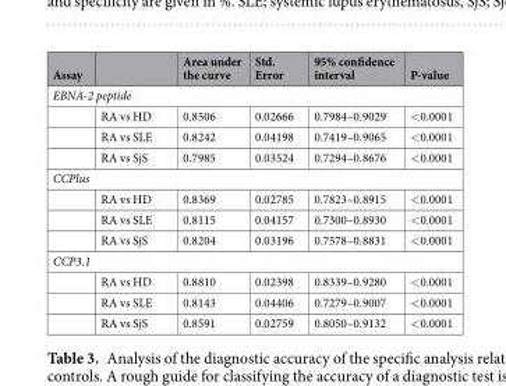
<table><thead><tr><td>Assay</td><td></td><td>Area under the curve</td><td>Std. Error</td><td>95% confidence interval</td><td>P-value</td></tr></thead><tbody><tr><td colspan="6">EBNA-2 peptide</td></tr><tr><td></td><td>RA vs HD</td><td>0.8506</td><td>0.02666</td><td>0.7984–0.9029</td><td>&lt;0.0001</td></tr><tr><td></td><td>RA vs SLE</td><td>0.8242</td><td>0.04198</td><td>0.7419–0.9065</td><td>&lt;0.0001</td></tr><tr><td></td><td>RA vs SjS</td><td>0.7985</td><td>0.03524</td><td>0.7294–0.8676</td><td>&lt;0.0001</td></tr><tr><td colspan="6">CCPlus</td></tr><tr><td></td><td>RA vs HD</td><td>0.8369</td><td>0.02785</td><td>0.7823–0.8915</td><td>&lt;0.0001</td></tr><tr><td></td><td>RA vs SLE</td><td>0.8115</td><td>0.04157</td><td>0.7300–0.8930</td><td>&lt;0.0001</td></tr><tr><td></td><td>RA vs SjS</td><td>0.8204</td><td>0.03196</td><td>0.7578–0.8831</td><td>&lt;0.0001</td></tr><tr><td colspan="6">CCP3.1</td></tr><tr><td></td><td>RA vs HD</td><td>0.8810</td><td>0.02398</td><td>0.8339–0.9280</td><td>&lt;0.0001</td></tr><tr><td></td><td>RA vs SLE</td><td>0.8143</td><td>0.04406</td><td>0.7279–0.9007</td><td>&lt;0.0001</td></tr><tr><td></td><td>RA vs SjS</td><td>0.8591</td><td>0.02759</td><td>0.8050–0.9132</td><td>&lt;0.0001</td></tr></tbody></table>